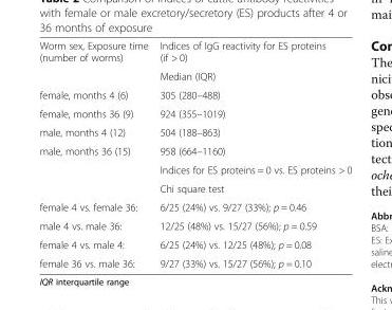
<table><tbody><tr><td rowspan="2">Worm sex, Exposure time (number of worms)</td><td>Indices of IgG reactivity for ES proteins (if &gt; 0)</td></tr><tr><td>Median (IQR)</td></tr><tr><td>female, months 4 (6)</td><td>305 (280–488)</td></tr><tr><td>female, months 36 (9)</td><td>924 (355–1019)</td></tr><tr><td>male, months 4 (12)</td><td>504 (188–863)</td></tr><tr><td rowspan="3">male, months 36 (15)</td><td>958 (664–1160)</td></tr><tr><td>Indices for ES proteins = 0 vs. ES proteins &gt; 0</td></tr><tr><td>Chi square test</td></tr><tr><td>female 4 vs. female 36:</td><td>6/25 (24%) vs. 9/27 (33%); p = 0.46</td></tr><tr><td>male 4 vs. male 36:</td><td>12/25 (48%) vs. 15/27 (56%); p = 0.59</td></tr><tr><td>female 4 vs. male 4:</td><td>6/25 (24%) vs. 12/25 (48%); p = 0.08</td></tr><tr><td>female 36 vs. male 36:</td><td>9/27 (33%) vs. 15/27 (56%); p = 0.10</td></tr></tbody></table>